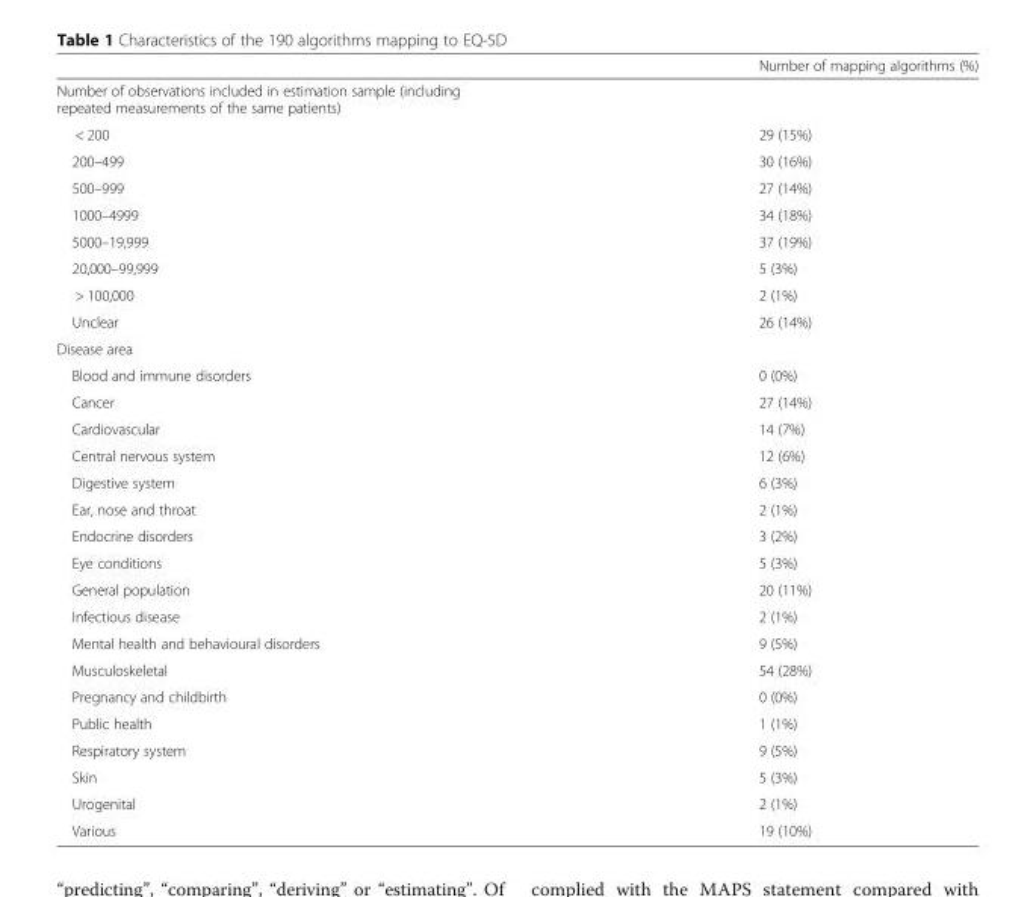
<table><thead><tr><td></td><td>Number of mapping algorithms (%)</td></tr></thead><tbody><tr><td colspan="2">Number of observations included in estimation sample (including repeated measurements of the same patients)</td></tr><tr><td>&lt; 200</td><td>29 (15%)</td></tr><tr><td>200–499</td><td>30 (16%)</td></tr><tr><td>500–999</td><td>27 (14%)</td></tr><tr><td>1000–4999</td><td>34 (18%)</td></tr><tr><td>5000–19,999</td><td>37 (19%)</td></tr><tr><td>20,000–99,999</td><td>5 (3%)</td></tr><tr><td>&gt; 100,000</td><td>2 (1%)</td></tr><tr><td>Unclear</td><td>26 (14%)</td></tr><tr><td colspan="2">Disease area</td></tr><tr><td>Blood and immune disorders</td><td>0 (0%)</td></tr><tr><td>Cancer</td><td>27 (14%)</td></tr><tr><td>Cardiovascular</td><td>14 (7%)</td></tr><tr><td>Central nervous system</td><td>12 (6%)</td></tr><tr><td>Digestive system</td><td>6 (3%)</td></tr><tr><td>Ear, nose and throat</td><td>2 (1%)</td></tr><tr><td>Endocrine disorders</td><td>3 (2%)</td></tr><tr><td>Eye conditions</td><td>5 (3%)</td></tr><tr><td>General population</td><td>20 (11%)</td></tr><tr><td>Infectious disease</td><td>2 (1%)</td></tr><tr><td>Mental health and behavioural disorders</td><td>9 (5%)</td></tr><tr><td>Musculoskeletal</td><td>54 (28%)</td></tr><tr><td>Pregnancy and childbirth</td><td>0 (0%)</td></tr><tr><td>Public health</td><td>1 (1%)</td></tr><tr><td>Respiratory system</td><td>9 (5%)</td></tr><tr><td>Skin</td><td>5 (3%)</td></tr><tr><td>Urogenital</td><td>2 (1%)</td></tr><tr><td>Various</td><td>19 (10%)</td></tr></tbody></table>